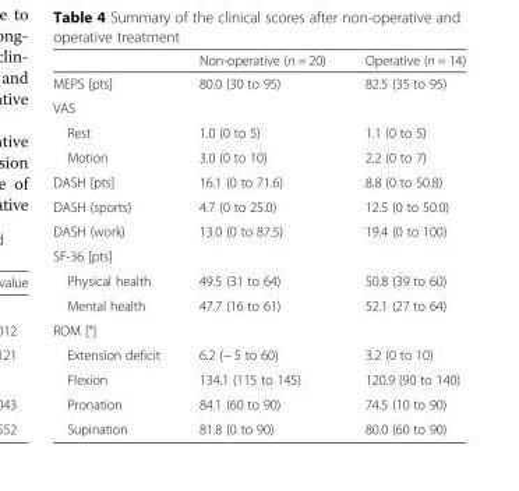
<table><thead><tr><td></td><td>Non-operative (n = 20)</td><td>Operative (n = 14)</td></tr></thead><tbody><tr><td>MEPS [pts]</td><td>80.0 (30 to 95)</td><td>82.5 (35 to 95)</td></tr><tr><td colspan="3">VAS</td></tr><tr><td>Rest</td><td>1.0 (0 to 5)</td><td>1.1 (0 to 5)</td></tr><tr><td>Motion</td><td>3.0 (0 to 10)</td><td>2.2 (0 to 7)</td></tr><tr><td>DASH [pts]</td><td>16.1 (0 to 71.6)</td><td>8.8 (0 to 50.8)</td></tr><tr><td>DASH (sports)</td><td>4.7 (0 to 25.0)</td><td>12.5 (0 to 50.0)</td></tr><tr><td>DASH (work)</td><td>13.0 (0 to 87.5)</td><td>19.4 (0 to 100)</td></tr><tr><td colspan="3">SF-36 [pts]</td></tr><tr><td>Physical health</td><td>49.5 (31 to 64)</td><td>50.8 (39 to 60)</td></tr><tr><td>Mental health</td><td>47.7 (16 to 61)</td><td>52.1 (27 to 64)</td></tr><tr><td colspan="3">ROM [°]</td></tr><tr><td>Extension deficit</td><td>6.2 (− 5 to 60)</td><td>3.2 (0 to 10)</td></tr><tr><td>Flexion</td><td>134.1 (115 to 145)</td><td>120.9 (90 to 140)</td></tr><tr><td>Pronation</td><td>84.1 (60 to 90)</td><td>74.5 (10 to 90)</td></tr><tr><td>Supination</td><td>81.8 (0 to 90)</td><td>80.0 (60 to 90)</td></tr></tbody></table>